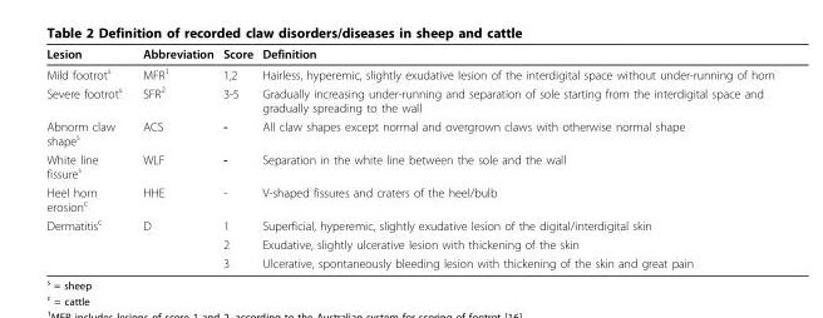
<table><thead><tr><td>Lesion</td><td>Abbreviation</td><td>Score</td><td>Definition</td></tr></thead><tbody><tr><td>Mild footrot<sup>s</sup></td><td>MFR<sup>1</sup></td><td>1,2</td><td>Hairless, hyperemic, slightly exudative lesion of the interdigital space without under-running of horn</td></tr><tr><td>Severe footrot<sup>s</sup></td><td>SFR<sup>2</sup></td><td>3-5</td><td>Gradually increasing under-running and separation of sole starting from the interdigital space and gradually spreading to the wall</td></tr><tr><td>Abnorm claw shape<sup>s</sup></td><td>ACS</td><td>-</td><td>All claw shapes except normal and overgrown claws with otherwise normal shape</td></tr><tr><td>White line fissure<sup>s</sup></td><td>WLF</td><td>-</td><td>Separation in the white line between the sole and the wall</td></tr><tr><td>Heel horn erosion<sup>c</sup></td><td>HHE</td><td>-</td><td>V-shaped fissures and craters of the heel/bulb</td></tr><tr><td rowspan="3">Dermatitis<sup>c</sup></td><td>D</td><td>1</td><td>Superficial, hyperemic, slightly exudative lesion of the digital/interdigital skin</td></tr><tr><td></td><td>2</td><td>Exudative, slightly ulcerative lesion with thickening of the skin</td></tr><tr><td></td><td>3</td><td>Ulcerative, spontaneously bleeding lesion with thickening of the skin and great pain</td></tr></tbody></table>